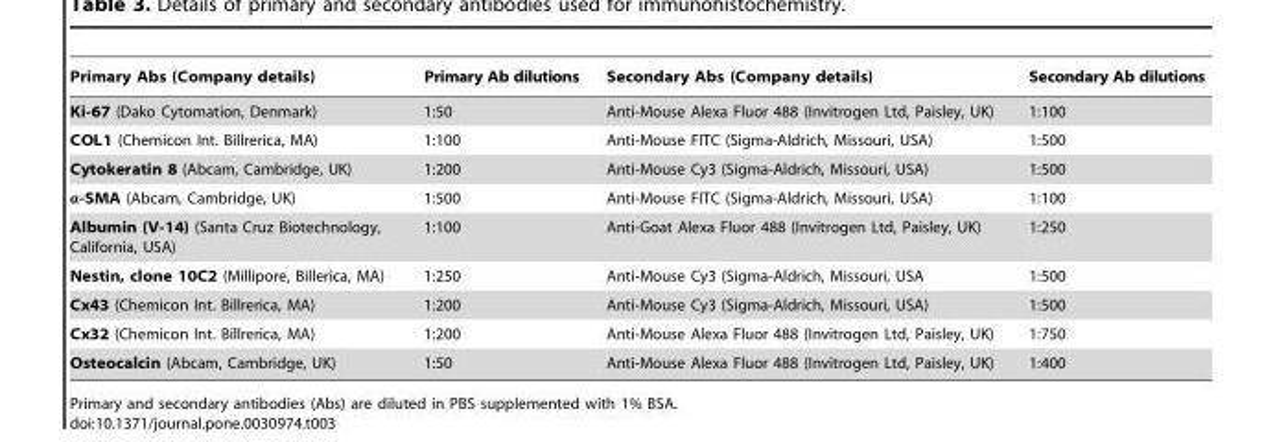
<table><thead><tr><td>Primary Abs (Company details)</td><td>Primary Ab dilutions</td><td>Secondary Abs (Company details)</td><td>Secondary Ab dilutions</td></tr></thead><tbody><tr><td>Ki-67 (Dako Cytomation, Denmark)</td><td>1:50</td><td>Anti-Mouse Alexa Fluor 488 (Invitrogen Ltd, Paisley, UK)</td><td>1:100</td></tr><tr><td>COL1 (Chemicon Int. Billrerica, MA)</td><td>1:100</td><td>Anti-Mouse FITC (Sigma-Aldrich, Missouri, USA)</td><td>1:500</td></tr><tr><td>Cytokeratin 8 (Abcam, Cambridge, UK)</td><td>1:200</td><td>Anti-Mouse Cy3 (Sigma-Aldrich, Missouri, USA)</td><td>1:500</td></tr><tr><td>α-SMA (Abcam, Cambridge, UK)</td><td>1:500</td><td>Anti-Mouse FITC (Sigma-Aldrich, Missouri, USA)</td><td>1:100</td></tr><tr><td>Albumin (V-14) (Santa Cruz Biotechnology, California, USA)</td><td>1:100</td><td>Anti-Goat Alexa Fluor 488 (Invitrogen Ltd, Paisley, UK)</td><td>1:250</td></tr><tr><td>Nestin, clone 10C2 (Millipore, Billerica, MA)</td><td>1:250</td><td>Anti-Mouse Cy3 (Sigma-Aldrich, Missouri, USA</td><td>1:500</td></tr><tr><td>Cx43 (Chemicon Int. Billrerica, MA)</td><td>1:200</td><td>Anti-Mouse Cy3 (Sigma-Aldrich, Missouri, USA)</td><td>1:500</td></tr><tr><td>Cx32 (Chemicon Int. Billrerica, MA)</td><td>1:200</td><td>Anti-Mouse Alexa Fluor 488 (Invitrogen Ltd, Paisley, UK)</td><td>1:750</td></tr><tr><td>Osteocalcin (Abcam, Cambridge, UK)</td><td>1:50</td><td>Anti-Mouse Alexa Fluor 488 (Invitrogen Ltd, Paisley, UK)</td><td>1:400</td></tr></tbody></table>